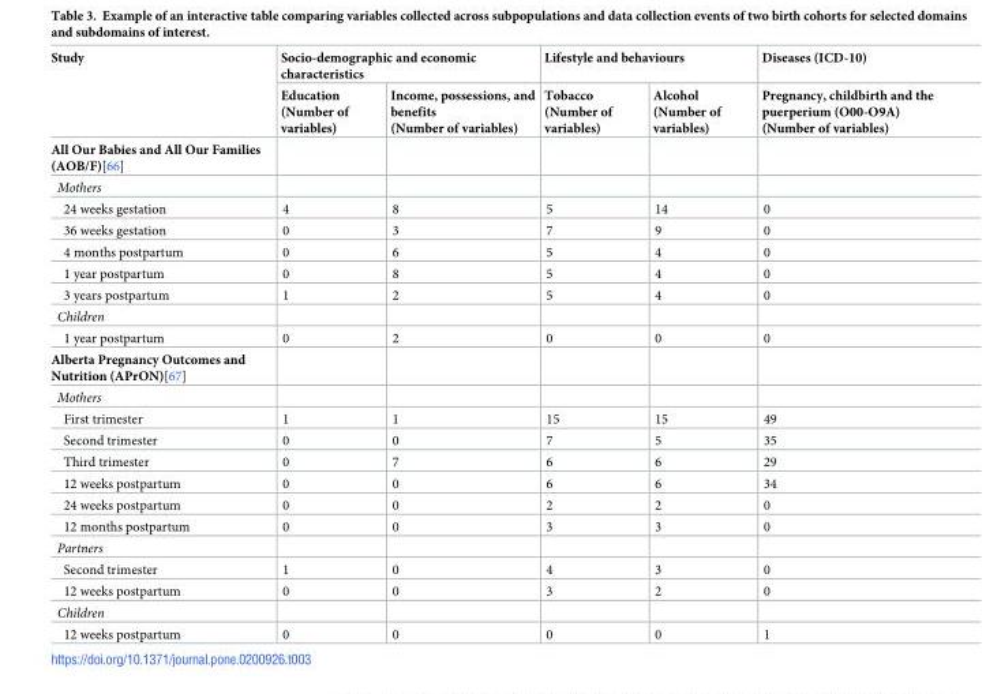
<table><thead><tr><td rowspan="2">Study</td><td colspan="2">Socio-demographic and economic characteristics</td><td colspan="2">Lifestyle and behaviours</td><td rowspan="2">Diseases (ICD-10) Pregnancy, childbirth and the puerperium (O00-O9A) (Number of variables)</td></tr><tr><td>Education (Number of variables)</td><td>Income, possessions, and benefits (Number of variables)</td><td>Tobacco (Number of variables)</td><td>Alcohol (Number of variables)</td></tr></thead><tbody><tr><td colspan="6">All Our Babies and All Our Families (AOB/F)[66]</td></tr><tr><td colspan="6">Mothers</td></tr><tr><td>24 weeks gestation</td><td>4</td><td>8</td><td>5</td><td>14</td><td>0</td></tr><tr><td>36 weeks gestation</td><td>0</td><td>3</td><td>7</td><td>9</td><td>0</td></tr><tr><td>4 months postpartum</td><td>0</td><td>6</td><td>5</td><td>4</td><td>0</td></tr><tr><td>1 year postpartum</td><td>0</td><td>8</td><td>5</td><td>4</td><td>0</td></tr><tr><td>3 years postpartum</td><td>1</td><td>2</td><td>5</td><td>4</td><td>0</td></tr><tr><td colspan="6">Children</td></tr><tr><td>1 year postpartum</td><td>0</td><td>2</td><td>0</td><td>0</td><td>0</td></tr><tr><td colspan="6">Alberta Pregnancy Outcomes and Nutrition (APrON)[67]</td></tr><tr><td colspan="6">Mothers</td></tr><tr><td>First trimester</td><td>1</td><td>1</td><td>15</td><td>15</td><td>49</td></tr><tr><td>Second trimester</td><td>0</td><td>0</td><td>7</td><td>5</td><td>35</td></tr><tr><td>Third trimester</td><td>0</td><td>7</td><td>6</td><td>6</td><td>29</td></tr><tr><td>12 weeks postpartum</td><td>0</td><td>0</td><td>6</td><td>6</td><td>34</td></tr><tr><td>24 weeks postpartum</td><td>0</td><td>0</td><td>2</td><td>2</td><td>0</td></tr><tr><td>12 months postpartum</td><td>0</td><td>0</td><td>3</td><td>3</td><td>0</td></tr><tr><td colspan="6">Partners</td></tr><tr><td>Second trimester</td><td>1</td><td>0</td><td>4</td><td>3</td><td>0</td></tr><tr><td>12 weeks postpartum</td><td>0</td><td>0</td><td>3</td><td>2</td><td>0</td></tr><tr><td colspan="6">Children</td></tr><tr><td>12 weeks postpartum</td><td>0</td><td>0</td><td>0</td><td>0</td><td>1</td></tr></tbody></table>